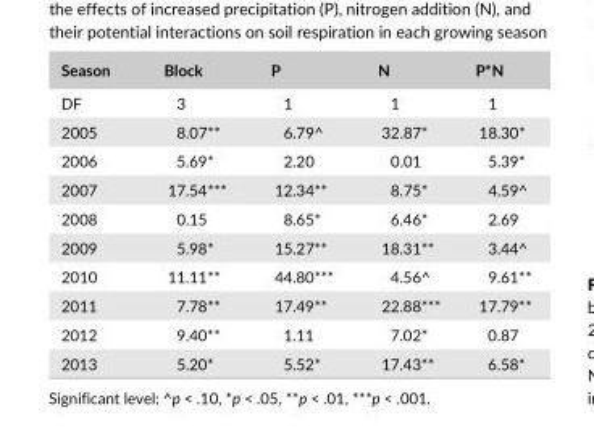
<table><thead><tr><td>Season</td><td>Block</td><td>P</td><td>N</td><td>P*N</td></tr></thead><tbody><tr><td>DF</td><td>3</td><td>1</td><td>1</td><td>1</td></tr><tr><td>2005</td><td>8.07**</td><td>6.79^</td><td>32.87*</td><td>18.30*</td></tr><tr><td>2006</td><td>5.69*</td><td>2.20</td><td>0.01</td><td>5.39*</td></tr><tr><td>2007</td><td>17.54***</td><td>12.34**</td><td>8.75*</td><td>4.59^</td></tr><tr><td>2008</td><td>0.15</td><td>8.65*</td><td>6.46*</td><td>2.69</td></tr><tr><td>2009</td><td>5.98*</td><td>15.27**</td><td>18.31**</td><td>3.44^</td></tr><tr><td>2010</td><td>11.11**</td><td>44.80***</td><td>4.56^</td><td>9.61**</td></tr><tr><td>2011</td><td>7.78**</td><td>17.49**</td><td>22.88***</td><td>17.79**</td></tr><tr><td>2012</td><td>9.40**</td><td>1.11</td><td>7.02*</td><td>0.87</td></tr><tr><td>2013</td><td>5.20*</td><td>5.52*</td><td>17.43**</td><td>6.58*</td></tr></tbody></table>